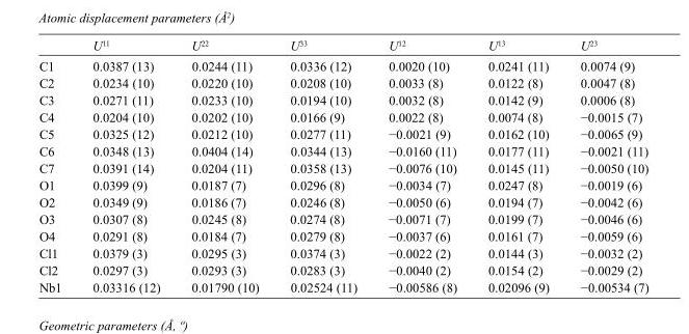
<table><thead><tr><td></td><td>U<sup>11</sup></td><td>U<sup>22</sup></td><td>U<sup>33</sup></td><td>U<sup>12</sup></td><td>U<sup>13</sup></td><td>U<sup>23</sup></td></tr></thead><tbody><tr><td>C1</td><td>0.0387 (13)</td><td>0.0244 (11)</td><td>0.0336 (12)</td><td>0.0020 (10)</td><td>0.0241 (11)</td><td>0.0074 (9)</td></tr><tr><td>C2</td><td>0.0234 (10)</td><td>0.0220 (10)</td><td>0.0208 (10)</td><td>0.0033 (8)</td><td>0.0122 (8)</td><td>0.0047 (8)</td></tr><tr><td>C3</td><td>0.0271 (11)</td><td>0.0233 (10)</td><td>0.0194 (10)</td><td>0.0032 (8)</td><td>0.0142 (9)</td><td>0.0006 (8)</td></tr><tr><td>C4</td><td>0.0204 (10)</td><td>0.0202 (10)</td><td>0.0166 (9)</td><td>0.0022 (8)</td><td>0.0074 (8)</td><td>−0.0015 (7)</td></tr><tr><td>C5</td><td>0.0325 (12)</td><td>0.0212 (10)</td><td>0.0277 (11)</td><td>−0.0021 (9)</td><td>0.0162 (10)</td><td>−0.0065 (9)</td></tr><tr><td>C6</td><td>0.0348 (13)</td><td>0.0404 (14)</td><td>0.0344 (13)</td><td>−0.0160 (11)</td><td>0.0177 (11)</td><td>−0.0021 (11)</td></tr><tr><td>C7</td><td>0.0391 (14)</td><td>0.0204 (11)</td><td>0.0358 (13)</td><td>−0.0076 (10)</td><td>0.0145 (11)</td><td>−0.0050 (10)</td></tr><tr><td>O1</td><td>0.0399 (9)</td><td>0.0187 (7)</td><td>0.0296 (8)</td><td>−0.0034 (7)</td><td>0.0247 (8)</td><td>−0.0019 (6)</td></tr><tr><td>O2</td><td>0.0349 (9)</td><td>0.0186 (7)</td><td>0.0246 (8)</td><td>−0.0050 (6)</td><td>0.0194 (7)</td><td>−0.0042 (6)</td></tr><tr><td>O3</td><td>0.0307 (8)</td><td>0.0245 (8)</td><td>0.0274 (8)</td><td>−0.0071 (7)</td><td>0.0199 (7)</td><td>−0.0046 (6)</td></tr><tr><td>O4</td><td>0.0291 (8)</td><td>0.0184 (7)</td><td>0.0279 (8)</td><td>−0.0037 (6)</td><td>0.0161 (7)</td><td>−0.0059 (6)</td></tr><tr><td>Cl1</td><td>0.0379 (3)</td><td>0.0295 (3)</td><td>0.0374 (3)</td><td>−0.0022 (2)</td><td>0.0144 (3)</td><td>−0.0032 (2)</td></tr><tr><td>Cl2</td><td>0.0297 (3)</td><td>0.0293 (3)</td><td>0.0283 (3)</td><td>−0.0040 (2)</td><td>0.0154 (2)</td><td>−0.0029 (2)</td></tr><tr><td>Nb1</td><td>0.03316 (12)</td><td>0.01790 (10)</td><td>0.02524 (11)</td><td>−0.00586 (8)</td><td>0.02096 (9)</td><td>−0.00534 (7)</td></tr></tbody></table>